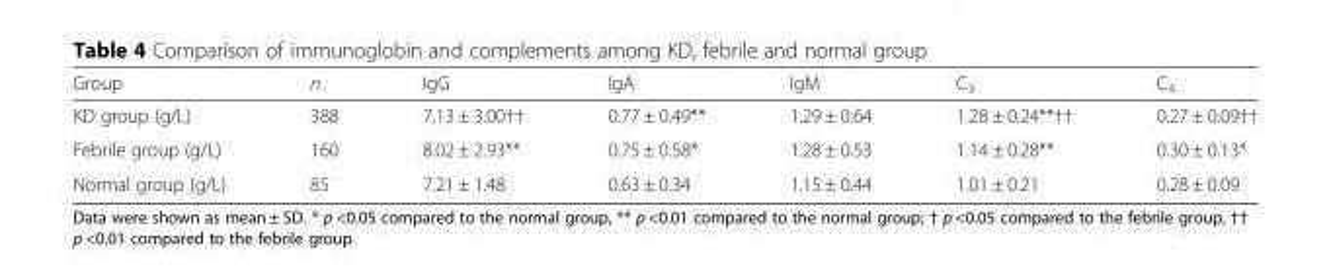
<table><thead><tr><td>Group</td><td>n</td><td>IgG</td><td>IgA</td><td>IgM</td><td>C<sub>3</sub></td><td>C<sub>4</sub></td></tr></thead><tbody><tr><td>KD group (g/L)</td><td>388</td><td>7.13 ± 3.00††</td><td>0.77 ± 0.49**</td><td>1.29 ± 0.64</td><td>1.28 ± 0.24**††</td><td>0.27 ± 0.09††</td></tr><tr><td>Febrile group (g/L)</td><td>160</td><td>8.02 ± 2.93**</td><td>0.75 ± 0.58*</td><td>1.28 ± 0.53</td><td>1.14 ± 0.28**</td><td>0.30 ± 0.13*</td></tr><tr><td>Normal group (g/L)</td><td>85</td><td>7.21 ± 1.48</td><td>0.63 ± 0.34</td><td>1.15 ± 0.44</td><td>1.01 ± 0.21</td><td>0.28 ± 0.09</td></tr></tbody></table>